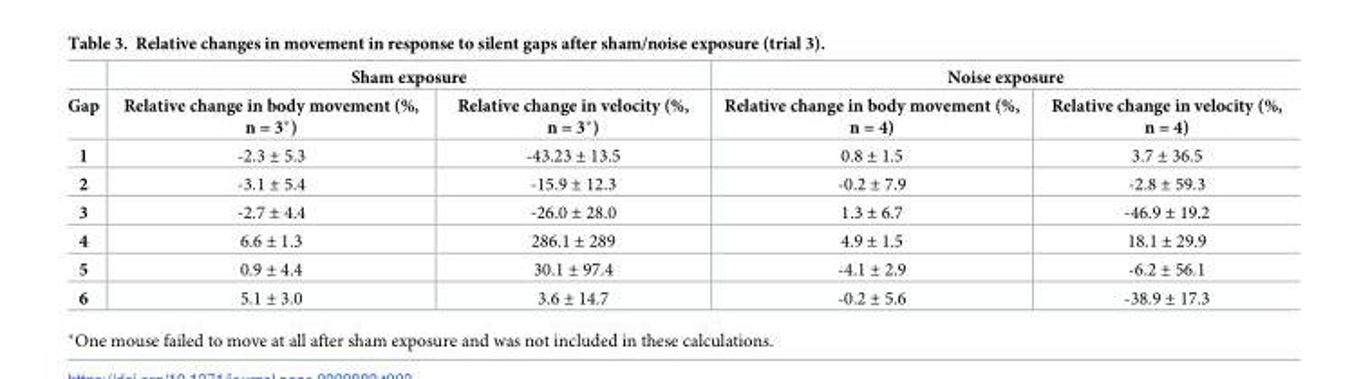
<table><thead><tr><td rowspan="2">Gap</td><td colspan="2">Sham exposure</td><td colspan="2">Noise exposure</td></tr><tr><td>Relative change in body movement (%, n = 3*)</td><td>Relative change in velocity (%, n = 3*)</td><td>Relative change in body movement (%, n = 4)</td><td>Relative change in velocity (%, n = 4)</td></tr></thead><tbody><tr><td>1</td><td>-2.3 ± 5.3</td><td>-43.23 ± 13.5</td><td>0.8 ± 1.5</td><td>3.7 ± 36.5</td></tr><tr><td>2</td><td>-3.1 ± 5.4</td><td>-15.9 ± 12.3</td><td>-0.2 ± 7.9</td><td>-2.8 ± 59.3</td></tr><tr><td>3</td><td>-2.7 ± 4.4</td><td>-26.0 ± 28.0</td><td>1.3 ± 6.7</td><td>-46.9 ± 19.2</td></tr><tr><td>4</td><td>6.6 ± 1.3</td><td>286.1 ± 289</td><td>4.9 ± 1.5</td><td>18.1 ± 29.9</td></tr><tr><td>5</td><td>0.9 ± 4.4</td><td>30.1 ± 97.4</td><td>-4.1 ± 2.9</td><td>-6.2 ± 56.1</td></tr><tr><td>6</td><td>5.1 ± 3.0</td><td>3.6 ± 14.7</td><td>-0.2 ± 5.6</td><td>-38.9 ± 17.3</td></tr></tbody></table>